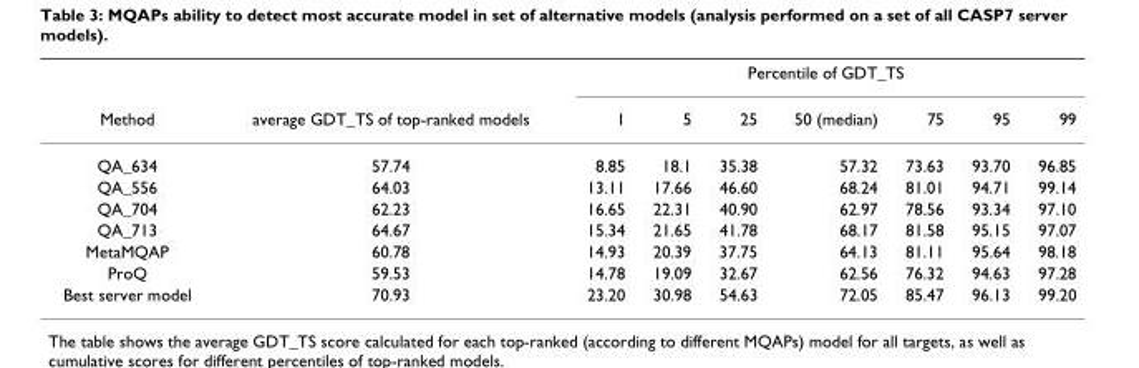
<table><thead><tr><td rowspan="2">Method</td><td rowspan="2">average GDT_TS of top-ranked models</td><td colspan="7">Percentile of GDT_TS</td></tr><tr><td>1</td><td>5</td><td>25</td><td>50 (median)</td><td>75</td><td>95</td><td>99</td></tr></thead><tbody><tr><td>QA_634</td><td>57.74</td><td>8.85</td><td>18.1</td><td>35.38</td><td>57.32</td><td>73.63</td><td>93.70</td><td>96.85</td></tr><tr><td>QA_556</td><td>64.03</td><td>13.11</td><td>17.66</td><td>46.60</td><td>68.24</td><td>81.01</td><td>94.71</td><td>99.14</td></tr><tr><td>QA_704</td><td>62.23</td><td>16.65</td><td>22.31</td><td>40.90</td><td>62.97</td><td>78.56</td><td>93.34</td><td>97.10</td></tr><tr><td>QA_713</td><td>64.67</td><td>15.34</td><td>21.65</td><td>41.78</td><td>68.17</td><td>81.58</td><td>95.15</td><td>97.07</td></tr><tr><td>MetaMQAP</td><td>60.78</td><td>14.93</td><td>20.39</td><td>37.75</td><td>64.13</td><td>81.11</td><td>95.64</td><td>98.18</td></tr><tr><td>ProQ</td><td>59.53</td><td>14.78</td><td>19.09</td><td>32.67</td><td>62.56</td><td>76.32</td><td>94.63</td><td>97.28</td></tr><tr><td>Best server model</td><td>70.93</td><td>23.20</td><td>30.98</td><td>54.63</td><td>72.05</td><td>85.47</td><td>96.13</td><td>99.20</td></tr></tbody></table>